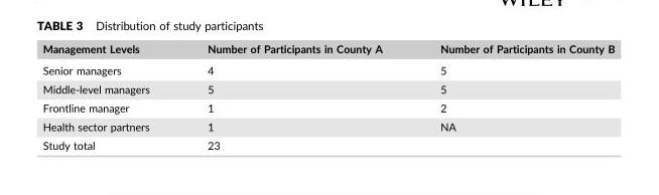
<table><thead><tr><td>Management Levels</td><td>Number of Participants in County A</td><td>Number of Participants in County B</td></tr></thead><tbody><tr><td>Senior managers</td><td>4</td><td>5</td></tr><tr><td>Middle‐level managers</td><td>5</td><td>5</td></tr><tr><td>Frontline manager</td><td>1</td><td>2</td></tr><tr><td>Health sector partners</td><td>1</td><td>NA</td></tr><tr><td>Study total</td><td colspan="2">23</td></tr></tbody></table>